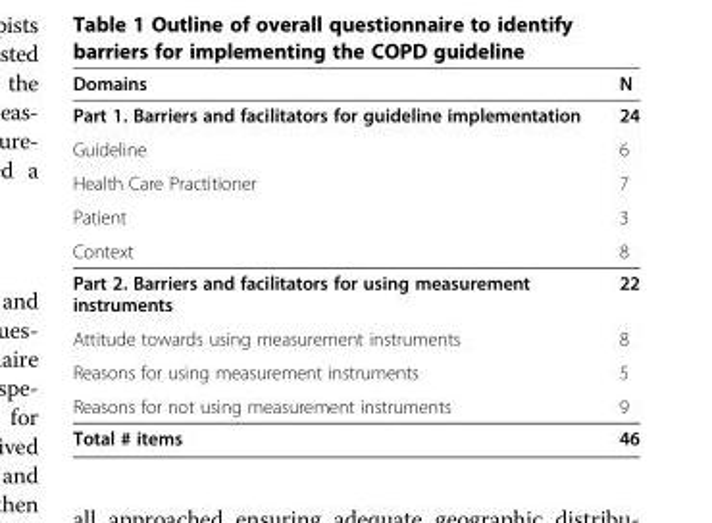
<table><thead><tr><td>Domains</td><td>N</td></tr></thead><tbody><tr><td>Part 1. Barriers and facilitators for guideline implementation</td><td>24</td></tr><tr><td>Guideline</td><td>6</td></tr><tr><td>Health Care Practitioner</td><td>7</td></tr><tr><td>Patient</td><td>3</td></tr><tr><td>Context</td><td>8</td></tr><tr><td>Part 2. Barriers and facilitators for using measurement instruments</td><td>22</td></tr><tr><td>Attitude towards using measurement instruments</td><td>8</td></tr><tr><td>Reasons for using measurement instruments</td><td>5</td></tr><tr><td>Reasons for not using measurement instruments</td><td>9</td></tr><tr><td>Total # items</td><td>46</td></tr></tbody></table>